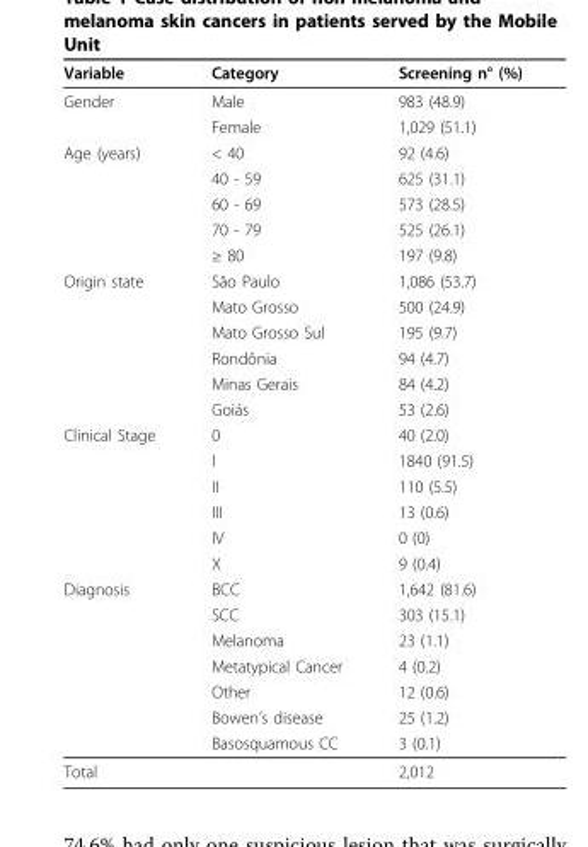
<table><thead><tr><td>Variable</td><td>Category</td><td>Screening n° (%)</td></tr></thead><tbody><tr><td rowspan="2">Gender</td><td>Male</td><td>983 (48.9)</td></tr><tr><td>Female</td><td>1,029 (51.1)</td></tr><tr><td rowspan="5">Age (years)</td><td>&lt; 40</td><td>92 (4.6)</td></tr><tr><td>40 - 59</td><td>625 (31.1)</td></tr><tr><td>60 - 69</td><td>573 (28.5)</td></tr><tr><td>70 - 79</td><td>525 (26.1)</td></tr><tr><td>≥ 80</td><td>197 (9.8)</td></tr><tr><td rowspan="6">Origin state</td><td>São Paulo</td><td>1,086 (53.7)</td></tr><tr><td>Mato Grosso</td><td>500 (24.9)</td></tr><tr><td>Mato Grosso Sul</td><td>195 (9.7)</td></tr><tr><td>Rondônia</td><td>94 (4.7)</td></tr><tr><td>Minas Gerais</td><td>84 (4.2)</td></tr><tr><td>Goiás</td><td>53 (2.6)</td></tr><tr><td rowspan="6">Clinical Stage</td><td>0</td><td>40 (2.0)</td></tr><tr><td>I</td><td>1840 (91.5)</td></tr><tr><td>II</td><td>110 (5.5)</td></tr><tr><td>III</td><td>13 (0.6)</td></tr><tr><td>IV</td><td>0 (0)</td></tr><tr><td>X</td><td>9 (0.4)</td></tr><tr><td rowspan="7">Diagnosis</td><td>BCC</td><td>1,642 (81.6)</td></tr><tr><td>SCC</td><td>303 (15.1)</td></tr><tr><td>Melanoma</td><td>23 (1.1)</td></tr><tr><td>Metatypical Cancer</td><td>4 (0.2)</td></tr><tr><td>Other</td><td>12 (0.6)</td></tr><tr><td>Bowen’s disease</td><td>25 (1.2)</td></tr><tr><td>Basosquamous CC</td><td>3 (0.1)</td></tr><tr><td>Total</td><td></td><td>2,012</td></tr></tbody></table>